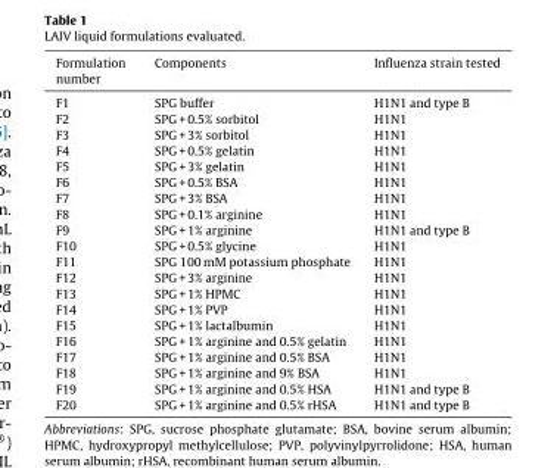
<table><thead><tr><td>Formulation number</td><td>Components</td><td>Influenza strain tested</td></tr></thead><tbody><tr><td>F1</td><td>SPG buffer</td><td>H1N1 and type B</td></tr><tr><td>F2</td><td>SPG + 0.5% sorbitol</td><td>H1N1</td></tr><tr><td>F3</td><td>SPG + 3% sorbitol</td><td>H1N1</td></tr><tr><td>F4</td><td>SPG + 0.5% gelatin</td><td>H1N1</td></tr><tr><td>F5</td><td>SPG + 3% gelatin</td><td>H1N1</td></tr><tr><td>F6</td><td>SPG + 0.5% BSA</td><td>H1N1</td></tr><tr><td>F7</td><td>SPG + 3% BSA</td><td>H1N1</td></tr><tr><td>F8</td><td>SPG + 0.1% arginine</td><td>H1N1</td></tr><tr><td>F9</td><td>SPG + 1% arginine</td><td>H1N1 and type B</td></tr><tr><td>F10</td><td>SPG + 0.5% glycine</td><td>H1N1</td></tr><tr><td>F11</td><td>SPG 100 mM potassium phosphate</td><td>H1N1</td></tr><tr><td>F12</td><td>SPG + 3% arginine</td><td>H1N1</td></tr><tr><td>F13</td><td>SPG + 1% HPMC</td><td>H1N1</td></tr><tr><td>F14</td><td>SPG + 1% PVP</td><td>H1N1</td></tr><tr><td>F15</td><td>SPG + 1% lactalbumin</td><td>H1N1</td></tr><tr><td>F16</td><td>SPG + 1% arginine and 0.5% gelatin</td><td>H1N1</td></tr><tr><td>F17</td><td>SPG + 1% arginine and 0.5% BSA</td><td>H1N1</td></tr><tr><td>F18</td><td>SPG + 1% arginine and 9% BSA</td><td>H1N1</td></tr><tr><td>F19</td><td>SPG + 1% arginine and 0.5% HSA</td><td>H1N1 and type B</td></tr><tr><td>F20</td><td>SPG + 1% arginine and 0.5% rHSA</td><td>H1N1 and type B</td></tr></tbody></table>